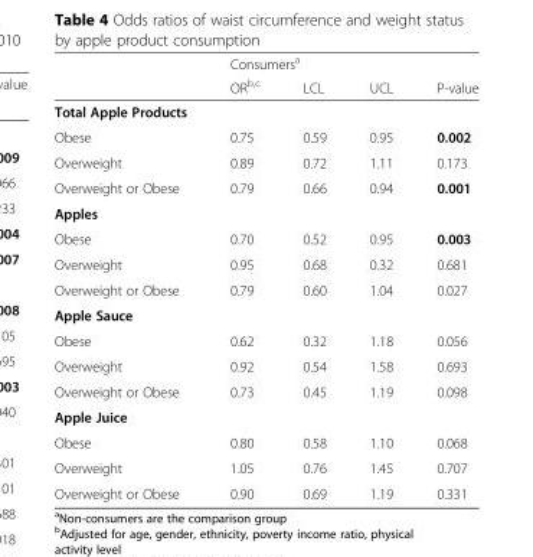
<table><thead><tr><td rowspan="2"></td><td colspan="4">Consumers<sup>a</sup></td></tr><tr><td>OR<sup>b,c</sup></td><td>LCL</td><td>UCL</td><td>P-value</td></tr></thead><tbody><tr><td colspan="5">Total Apple Products</td></tr><tr><td>Obese</td><td>0.75</td><td>0.59</td><td>0.95</td><td>0.002</td></tr><tr><td>Overweight</td><td>0.89</td><td>0.72</td><td>1.11</td><td>0.173</td></tr><tr><td>Overweight or Obese</td><td>0.79</td><td>0.66</td><td>0.94</td><td>0.001</td></tr><tr><td colspan="5">Apples</td></tr><tr><td>Obese</td><td>0.70</td><td>0.52</td><td>0.95</td><td>0.003</td></tr><tr><td>Overweight</td><td>0.95</td><td>0.68</td><td>0.32</td><td>0.681</td></tr><tr><td>Overweight or Obese</td><td>0.79</td><td>0.60</td><td>1.04</td><td>0.027</td></tr><tr><td colspan="5">Apple Sauce</td></tr><tr><td>Obese</td><td>0.62</td><td>0.32</td><td>1.18</td><td>0.056</td></tr><tr><td>Overweight</td><td>0.92</td><td>0.54</td><td>1.58</td><td>0.693</td></tr><tr><td>Overweight or Obese</td><td>0.73</td><td>0.45</td><td>1.19</td><td>0.098</td></tr><tr><td colspan="5">Apple Juice</td></tr><tr><td>Obese</td><td>0.80</td><td>0.58</td><td>1.10</td><td>0.068</td></tr><tr><td>Overweight</td><td>1.05</td><td>0.76</td><td>1.45</td><td>0.707</td></tr><tr><td>Overweight or Obese</td><td>0.90</td><td>0.69</td><td>1.19</td><td>0.331</td></tr></tbody></table>